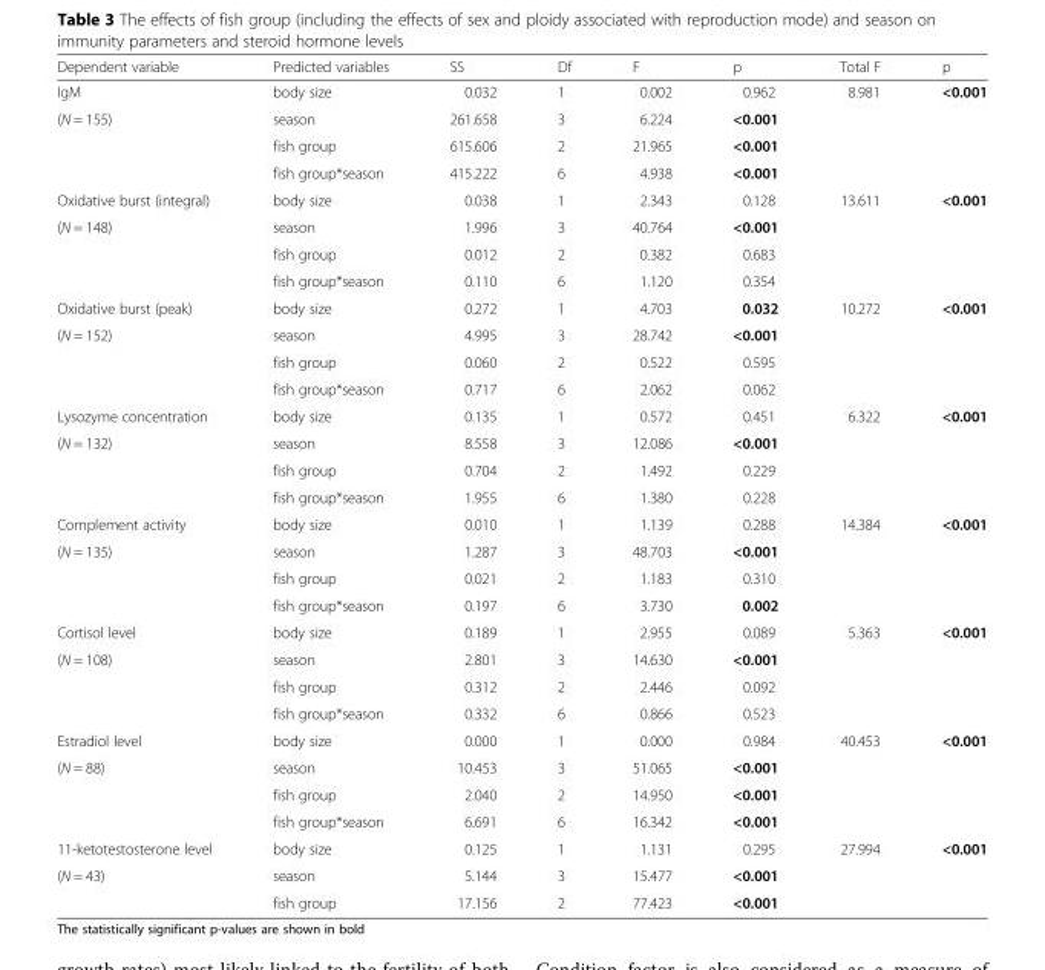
<table><thead><tr><td>Dependent variable</td><td>Predicted variables</td><td>SS</td><td>Df</td><td>F</td><td>p</td><td>Total F</td><td>p</td></tr></thead><tbody><tr><td>IgM</td><td>body size</td><td>0.032</td><td>1</td><td>0.002</td><td>0.962</td><td>8.981</td><td>&lt;0.001</td></tr><tr><td rowspan="3">(N = 155)</td><td>season</td><td>261.658</td><td>3</td><td>6.224</td><td>&lt;0.001</td><td></td><td></td></tr><tr><td>fish group</td><td>615.606</td><td>2</td><td>21.965</td><td>&lt;0.001</td><td></td><td></td></tr><tr><td>fish group*season</td><td>415.222</td><td>6</td><td>4.938</td><td>&lt;0.001</td><td></td><td></td></tr><tr><td>Oxidative burst (integral)</td><td>body size</td><td>0.038</td><td>1</td><td>2.343</td><td>0.128</td><td>13.611</td><td>&lt;0.001</td></tr><tr><td rowspan="3">(N = 148)</td><td>season</td><td>1.996</td><td>3</td><td>40.764</td><td>&lt;0.001</td><td></td><td></td></tr><tr><td>fish group</td><td>0.012</td><td>2</td><td>0.382</td><td>0.683</td><td></td><td></td></tr><tr><td>fish group*season</td><td>0.110</td><td>6</td><td>1.120</td><td>0.354</td><td></td><td></td></tr><tr><td>Oxidative burst (peak)</td><td>body size</td><td>0.272</td><td>1</td><td>4.703</td><td>0.032</td><td>10.272</td><td>&lt;0.001</td></tr><tr><td rowspan="3">(N = 152)</td><td>season</td><td>4.995</td><td>3</td><td>28.742</td><td>&lt;0.001</td><td></td><td></td></tr><tr><td>fish group</td><td>0.060</td><td>2</td><td>0.522</td><td>0.595</td><td></td><td></td></tr><tr><td>fish group*season</td><td>0.717</td><td>6</td><td>2.062</td><td>0.062</td><td></td><td></td></tr><tr><td>Lysozyme concentration</td><td>body size</td><td>0.135</td><td>1</td><td>0.572</td><td>0.451</td><td>6.322</td><td>&lt;0.001</td></tr><tr><td rowspan="3">(N = 132)</td><td>season</td><td>8.558</td><td>3</td><td>12.086</td><td>&lt;0.001</td><td></td><td></td></tr><tr><td>fish group</td><td>0.704</td><td>2</td><td>1.492</td><td>0.229</td><td></td><td></td></tr><tr><td>fish group*season</td><td>1.955</td><td>6</td><td>1.380</td><td>0.228</td><td></td><td></td></tr><tr><td>Complement activity</td><td>body size</td><td>0.010</td><td>1</td><td>1.139</td><td>0.288</td><td>14.384</td><td>&lt;0.001</td></tr><tr><td rowspan="3">(N = 135)</td><td>season</td><td>1.287</td><td>3</td><td>48.703</td><td>&lt;0.001</td><td></td><td></td></tr><tr><td>fish group</td><td>0.021</td><td>2</td><td>1.183</td><td>0.310</td><td></td><td></td></tr><tr><td>fish group*season</td><td>0.197</td><td>6</td><td>3.730</td><td>0.002</td><td></td><td></td></tr><tr><td>Cortisol level</td><td>body size</td><td>0.189</td><td>1</td><td>2.955</td><td>0.089</td><td>5.363</td><td>&lt;0.001</td></tr><tr><td rowspan="3">(N = 108)</td><td>season</td><td>2.801</td><td>3</td><td>14.630</td><td>&lt;0.001</td><td></td><td></td></tr><tr><td>fish group</td><td>0.312</td><td>2</td><td>2.446</td><td>0.092</td><td></td><td></td></tr><tr><td>fish group*season</td><td>0.332</td><td>6</td><td>0.866</td><td>0.523</td><td></td><td></td></tr><tr><td>Estradiol level</td><td>body size</td><td>0.000</td><td>1</td><td>0.000</td><td>0.984</td><td>40.453</td><td>&lt;0.001</td></tr><tr><td rowspan="3">(N = 88)</td><td>season</td><td>10.453</td><td>3</td><td>51.065</td><td>&lt;0.001</td><td></td><td></td></tr><tr><td>fish group</td><td>2.040</td><td>2</td><td>14.950</td><td>&lt;0.001</td><td></td><td></td></tr><tr><td>fish group*season</td><td>6.691</td><td>6</td><td>16.342</td><td>&lt;0.001</td><td></td><td></td></tr><tr><td>11-ketotestosterone level</td><td>body size</td><td>0.125</td><td>1</td><td>1.131</td><td>0.295</td><td>27.994</td><td>&lt;0.001</td></tr><tr><td rowspan="2">(N = 43)</td><td>season</td><td>5.144</td><td>3</td><td>15.477</td><td>&lt;0.001</td><td></td><td></td></tr><tr><td>fish group</td><td>17.156</td><td>2</td><td>77.423</td><td>&lt;0.001</td><td></td><td></td></tr></tbody></table>